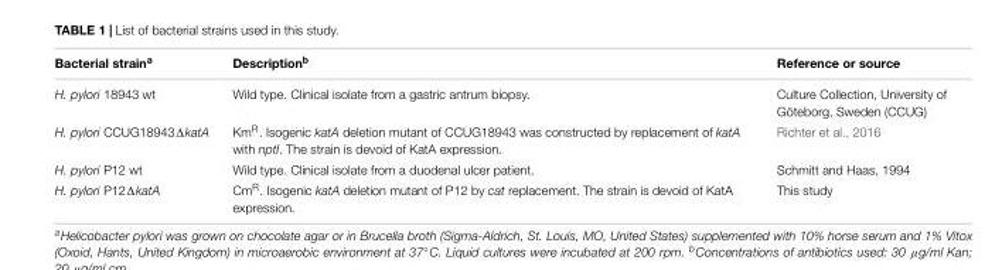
<table><thead><tr><td>Bacterial strain<sup>a</sup></td><td>Description<sup>b</sup></td><td>Reference or source</td></tr></thead><tbody><tr><td>H. pylori 18943 wt</td><td>Wild type. Clinical isolate from a gastric antrum biopsy.</td><td>Culture Collection, University of Göteborg, Sweden (CCUG)</td></tr><tr><td>H. pylori CCUG18943ΔkatA</td><td>Km<sup>R</sup>. Isogenic katA deletion mutant of CCUG18943 was constructed by replacement of katA with nptI. The strain is devoid of KatA expression.</td><td>Richter et al., 2016</td></tr><tr><td>H. pylori P12 wt</td><td>Wild type. Clinical isolate from a duodenal ulcer patient.</td><td>Schmitt and Haas, 1994</td></tr><tr><td>H. pylori P12ΔkatA</td><td>Cm<sup>R</sup>. Isogenic katA deletion mutant of P12 by cat replacement. The strain is devoid of KatA expression.</td><td>This study</td></tr></tbody></table>